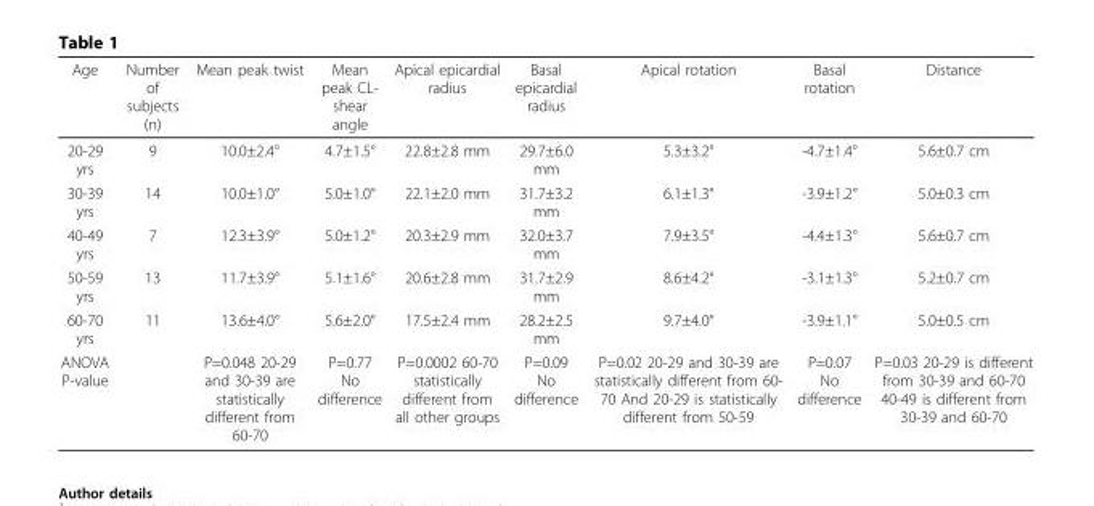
<table><thead><tr><td>Age</td><td>Number of subjects (n)</td><td>Mean peak twist</td><td>Mean peak CL- shear angle</td><td>Apical epicardial radius</td><td>Basal epicardial radius</td><td>Apical rotation</td><td>Basal rotation</td><td>Distance</td></tr></thead><tbody><tr><td>20-29 yrs</td><td>9</td><td>10.0±2.4°</td><td>4.7±1.5°</td><td>22.8±2.8 mm</td><td>29.7±6.0 mm</td><td>5.3±3.2°</td><td>-4.7±1.4°</td><td>5.6±0.7 cm</td></tr><tr><td>30-39 yrs</td><td>14</td><td>10.0±1.0°</td><td>5.0±1.0°</td><td>22.1±2.0 mm</td><td>31.7±3.2 mm</td><td>6.1±1.3°</td><td>-3.9±1.2°</td><td>5.0±0.3 cm</td></tr><tr><td>40-49 yrs</td><td>7</td><td>12.3±3.9°</td><td>5.0±1.2°</td><td>20.3±2.9 mm</td><td>32.0±3.7 mm</td><td>7.9±3.5°</td><td>-4.4±1.3°</td><td>5.6±0.7 cm</td></tr><tr><td>50-59 yrs</td><td>13</td><td>11.7±3.9°</td><td>5.1±1.6°</td><td>20.6±2.8 mm</td><td>31.7±2.9 mm</td><td>8.6±4.2°</td><td>-3.1±1.3°</td><td>5.2±0.7 cm</td></tr><tr><td>60-70 yrs</td><td>11</td><td>13.6±4.0°</td><td>5.6±2.0°</td><td>17.5±2.4 mm</td><td>28.2±2.5 mm</td><td>9.7±4.0°</td><td>-3.9±1.1°</td><td>5.0±0.5 cm</td></tr><tr><td>ANOVA P-value</td><td></td><td>P=0.048 20-29 and 30-39 are statistically different from 60-70</td><td>P=0.77 No difference</td><td>P=0.0002 60-70 statistically different from all other groups</td><td>P=0.09 No difference</td><td>P=0.02 20-29 and 30-39 are statistically different from 60- 70 And 20-29 is statistically different from 50-59</td><td>P=0.07 No difference</td><td>P=0.03 20-29 is different from 30-39 and 60-70 40-49 is different from 30-39 and 60-70</td></tr></tbody></table>